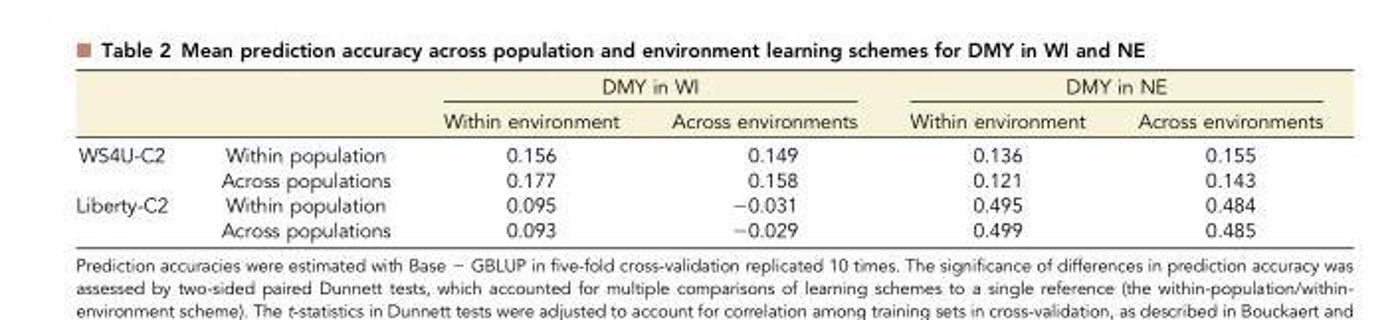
<table><thead><tr><td rowspan="2"></td><td rowspan="2"></td><td colspan="2">DMY in WI</td><td colspan="2">DMY in NE</td></tr><tr><td>Within environment</td><td>Across environments</td><td>Within environment</td><td>Across environments</td></tr></thead><tbody><tr><td rowspan="2">WS4U-C2</td><td>Within population</td><td>0.156</td><td>0.149</td><td>0.136</td><td>0.155</td></tr><tr><td>Across populations</td><td>0.177</td><td>0.158</td><td>0.121</td><td>0.143</td></tr><tr><td rowspan="2">Liberty-C2</td><td>Within population</td><td>0.095</td><td>−0.031</td><td>0.495</td><td>0.484</td></tr><tr><td>Across populations</td><td>0.093</td><td>−0.029</td><td>0.499</td><td>0.485</td></tr></tbody></table>